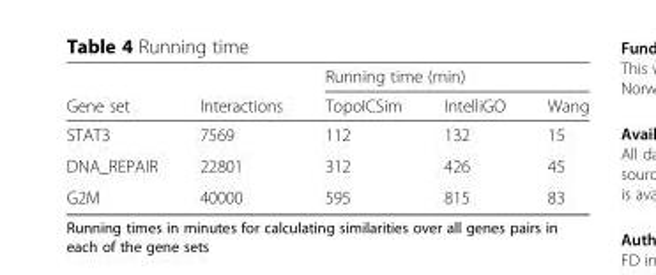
<table><thead><tr><td rowspan="2">Gene set</td><td rowspan="2">Interactions</td><td colspan="3">Running time (min)</td></tr><tr><td>TopoICSim</td><td>IntelliGO</td><td>Wang</td></tr></thead><tbody><tr><td>STAT3</td><td>7569</td><td>112</td><td>132</td><td>15</td></tr><tr><td>DNA_REPAIR</td><td>22801</td><td>312</td><td>426</td><td>45</td></tr><tr><td>G2M</td><td>40000</td><td>595</td><td>815</td><td>83</td></tr></tbody></table>